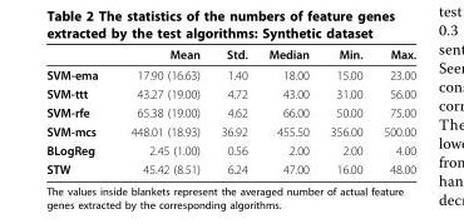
<table><thead><tr><td></td><td>Mean</td><td>Std.</td><td>Median</td><td>Min.</td><td>Max.</td></tr></thead><tbody><tr><td>SVM-ema</td><td>17.90 (16.63)</td><td>1.40</td><td>18.00</td><td>15.00</td><td>23.00</td></tr><tr><td>SVM-ttt</td><td>43.27 (19.00)</td><td>4.72</td><td>43.00</td><td>31.00</td><td>56.00</td></tr><tr><td>SVM-rfe</td><td>65.38 (19.00)</td><td>4.62</td><td>66.00</td><td>50.00</td><td>75.00</td></tr><tr><td>SVM-mcs</td><td>448.01 (18.93)</td><td>36.92</td><td>455.50</td><td>356.00</td><td>500.00</td></tr><tr><td>BLogReg</td><td>2.45 (1.00)</td><td>0.56</td><td>2.00</td><td>2.00</td><td>4.00</td></tr><tr><td>STW</td><td>45.42 (8.51)</td><td>6.24</td><td>47.00</td><td>16.00</td><td>48.00</td></tr></tbody></table>